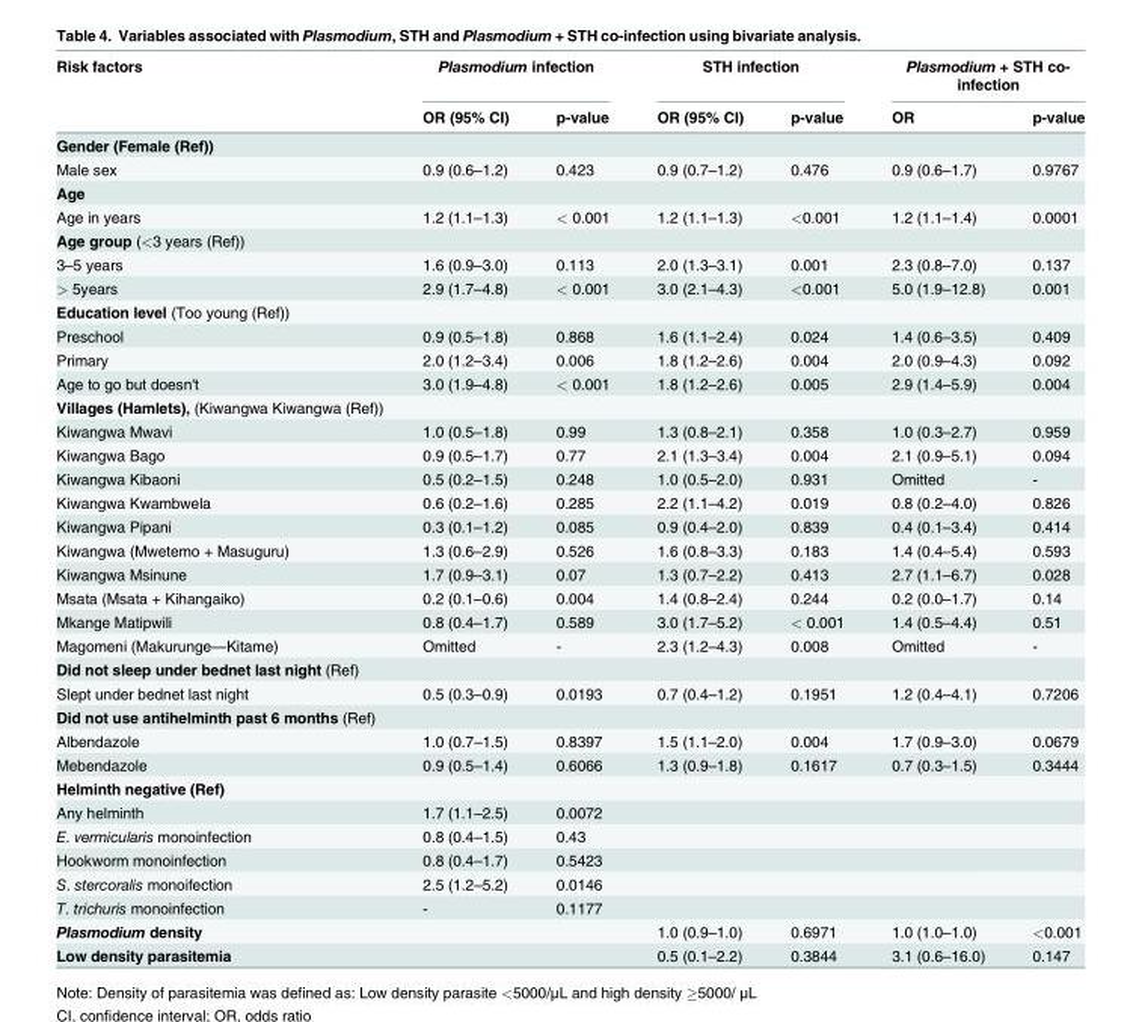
<table><thead><tr><td rowspan="2">Risk factors</td><td colspan="2">Plasmodium infection</td><td colspan="2">STH infection</td><td colspan="2">Plasmodium + STH co- infection</td></tr><tr><td>OR (95% CI)</td><td>p-value</td><td>OR (95% CI)</td><td>p-value</td><td>OR</td><td>p-value</td></tr></thead><tbody><tr><td colspan="7">Gender (Female (Ref))</td></tr><tr><td>Male sex</td><td>0.9 (0.6–1.2)</td><td>0.423</td><td>0.9 (0.7–1.2)</td><td>0.476</td><td>0.9 (0.6–1.7)</td><td>0.9767</td></tr><tr><td colspan="7">Age</td></tr><tr><td>Age in years</td><td>1.2 (1.1–1.3)</td><td>&lt; 0.001</td><td>1.2 (1.1–1.3)</td><td>&lt;0.001</td><td>1.2 (1.1–1.4)</td><td>0.0001</td></tr><tr><td colspan="7">Age group (&lt;3 years (Ref))</td></tr><tr><td>3–5 years</td><td>1.6 (0.9–3.0)</td><td>0.113</td><td>2.0 (1.3–3.1)</td><td>0.001</td><td>2.3 (0.8–7.0)</td><td>0.137</td></tr><tr><td>&gt; 5years</td><td>2.9 (1.7–4.8)</td><td>&lt; 0.001</td><td>3.0 (2.1–4.3)</td><td>&lt;0.001</td><td>5.0 (1.9–12.8)</td><td>0.001</td></tr><tr><td colspan="7">Education level (Too young (Ref))</td></tr><tr><td>Preschool</td><td>0.9 (0.5–1.8)</td><td>0.868</td><td>1.6 (1.1–2.4)</td><td>0.024</td><td>1.4 (0.6–3.5)</td><td>0.409</td></tr><tr><td>Primary</td><td>2.0 (1.2–3.4)</td><td>0.006</td><td>1.8 (1.2–2.6)</td><td>0.004</td><td>2.0 (0.9–4.3)</td><td>0.092</td></tr><tr><td>Age to go but doesn&#x27;t</td><td>3.0 (1.9–4.8)</td><td>&lt; 0.001</td><td>1.8 (1.2–2.6)</td><td>0.005</td><td>2.9 (1.4–5.9)</td><td>0.004</td></tr><tr><td colspan="7">Villages (Hamlets), (Kiwangwa Kiwangwa (Ref))</td></tr><tr><td>Kiwangwa Mwavi</td><td>1.0 (0.5–1.8)</td><td>0.99</td><td>1.3 (0.8–2.1)</td><td>0.358</td><td>1.0 (0.3–2.7)</td><td>0.959</td></tr><tr><td>Kiwangwa Bago</td><td>0.9 (0.5–1.7)</td><td>0.77</td><td>2.1 (1.3–3.4)</td><td>0.004</td><td>2.1 (0.9–5.1)</td><td>0.094</td></tr><tr><td>Kiwangwa Kibaoni</td><td>0.5 (0.2–1.5)</td><td>0.248</td><td>1.0 (0.5–2.0)</td><td>0.931</td><td>Omitted</td><td>-</td></tr><tr><td>Kiwangwa Kwambwela</td><td>0.6 (0.2–1.6)</td><td>0.285</td><td>2.2 (1.1–4.2)</td><td>0.019</td><td>0.8 (0.2–4.0)</td><td>0.826</td></tr><tr><td>Kiwangwa Pipani</td><td>0.3 (0.1–1.2)</td><td>0.085</td><td>0.9 (0.4–2.0)</td><td>0.839</td><td>0.4 (0.1–3.4)</td><td>0.414</td></tr><tr><td>Kiwangwa (Mwetemo + Masuguru)</td><td>1.3 (0.6–2.9)</td><td>0.526</td><td>1.6 (0.8–3.3)</td><td>0.183</td><td>1.4 (0.4–5.4)</td><td>0.593</td></tr><tr><td>Kiwangwa Msinune</td><td>1.7 (0.9–3.1)</td><td>0.07</td><td>1.3 (0.7–2.2)</td><td>0.413</td><td>2.7 (1.1–6.7)</td><td>0.028</td></tr><tr><td>Msata (Msata + Kihangaiko)</td><td>0.2 (0.1–0.6)</td><td>0.004</td><td>1.4 (0.8–2.4)</td><td>0.244</td><td>0.2 (0.0–1.7)</td><td>0.14</td></tr><tr><td>Mkange Matipwili</td><td>0.8 (0.4–1.7)</td><td>0.589</td><td>3.0 (1.7–5.2)</td><td>&lt; 0.001</td><td>1.4 (0.5–4.4)</td><td>0.51</td></tr><tr><td>Magomeni (Makurunge—Kitame)</td><td>Omitted</td><td>-</td><td>2.3 (1.2–4.3)</td><td>0.008</td><td>Omitted</td><td>-</td></tr><tr><td colspan="7">Did not sleep under bednet last night (Ref)</td></tr><tr><td>Slept under bednet last night</td><td>0.5 (0.3–0.9)</td><td>0.0193</td><td>0.7 (0.4–1.2)</td><td>0.1951</td><td>1.2 (0.4–4.1)</td><td>0.7206</td></tr><tr><td colspan="7">Did not use antihelminth past 6 months (Ref)</td></tr><tr><td>Albendazole</td><td>1.0 (0.7–1.5)</td><td>0.8397</td><td>1.5 (1.1–2.0)</td><td>0.004</td><td>1.7 (0.9–3.0)</td><td>0.0679</td></tr><tr><td>Mebendazole</td><td>0.9 (0.5–1.4)</td><td>0.6066</td><td>1.3 (0.9–1.8)</td><td>0.1617</td><td>0.7 (0.3–1.5)</td><td>0.3444</td></tr><tr><td colspan="7">Helminth negative (Ref)</td></tr><tr><td>Any helminth</td><td>1.7 (1.1–2.5)</td><td>0.0072</td><td></td><td></td><td></td><td></td></tr><tr><td>E. vermicularis monoinfection</td><td>0.8 (0.4–1.5)</td><td>0.43</td><td></td><td></td><td></td><td></td></tr><tr><td>Hookworm monoinfection</td><td>0.8 (0.4–1.7)</td><td>0.5423</td><td></td><td></td><td></td><td></td></tr><tr><td>S. stercoralis monoifection</td><td>2.5 (1.2–5.2)</td><td>0.0146</td><td></td><td></td><td></td><td></td></tr><tr><td>T. trichuris monoinfection</td><td>-</td><td>0.1177</td><td></td><td></td><td></td><td></td></tr><tr><td>Plasmodium density</td><td></td><td></td><td>1.0 (0.9–1.0)</td><td>0.6971</td><td>1.0 (1.0–1.0)</td><td>&lt;0.001</td></tr><tr><td>Low density parasitemia</td><td></td><td></td><td>0.5 (0.1–2.2)</td><td>0.3844</td><td>3.1 (0.6–16.0)</td><td>0.147</td></tr></tbody></table>